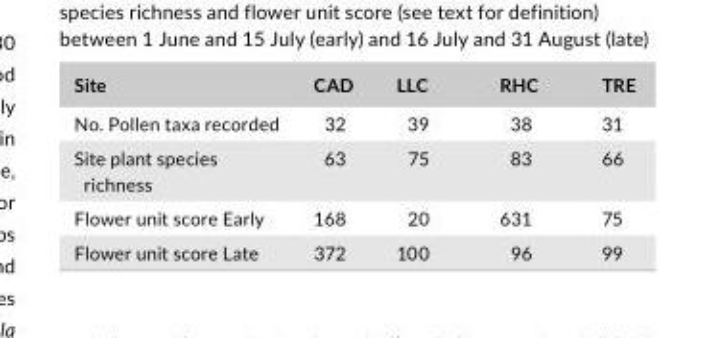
<table><thead><tr><td>Site</td><td>CAD</td><td>LLC</td><td>RHC</td><td>TRE</td></tr></thead><tbody><tr><td>No. Pollen taxa recorded</td><td>32</td><td>39</td><td>38</td><td>31</td></tr><tr><td>Site plant species richness</td><td>63</td><td>75</td><td>83</td><td>66</td></tr><tr><td>Flower unit score Early</td><td>168</td><td>20</td><td>631</td><td>75</td></tr><tr><td>Flower unit score Late</td><td>372</td><td>100</td><td>96</td><td>99</td></tr></tbody></table>